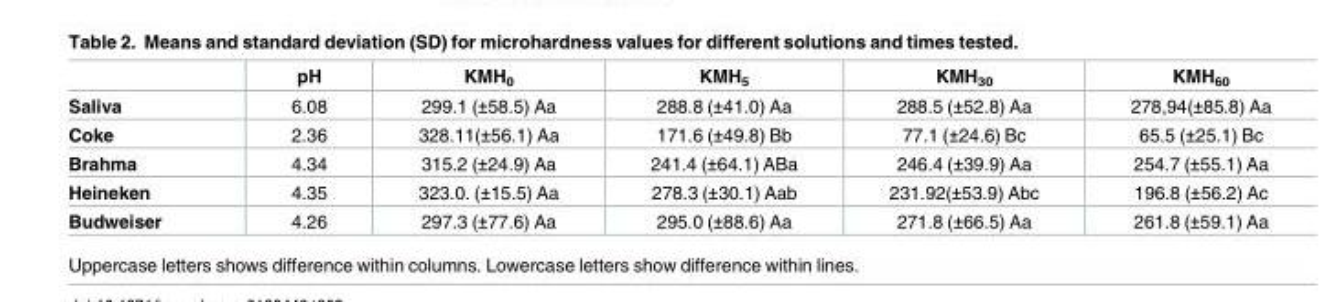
<table><thead><tr><td></td><td>pH</td><td>KMH<sub>0</sub></td><td>KMH<sub>5</sub></td><td>KMH<sub>30</sub></td><td>KMH<sub>60</sub></td></tr></thead><tbody><tr><td>Saliva</td><td>6.08</td><td>299.1 (±58.5) Aa</td><td>288.8 (±41.0) Aa</td><td>288.5 (±52.8) Aa</td><td>278,94(±85.8) Aa</td></tr><tr><td>Coke</td><td>2.36</td><td>328.11(±56.1) Aa</td><td>171.6 (±49.8) Bb</td><td>77.1 (±24.6) Bc</td><td>65.5 (±25.1) Bc</td></tr><tr><td>Brahma</td><td>4.34</td><td>315.2 (±24.9) Aa</td><td>241.4 (±64.1) ABa</td><td>246.4 (±39.9) Aa</td><td>254.7 (±55.1) Aa</td></tr><tr><td>Heineken</td><td>4.35</td><td>323.0. (±15.5) Aa</td><td>278.3 (±30.1) Aab</td><td>231.92(±53.9) Abc</td><td>196.8 (±56.2) Ac</td></tr><tr><td>Budweiser</td><td>4.26</td><td>297.3 (±77.6) Aa</td><td>295.0 (±88.6) Aa</td><td>271.8 (±66.5) Aa</td><td>261.8 (±59.1) Aa</td></tr></tbody></table>